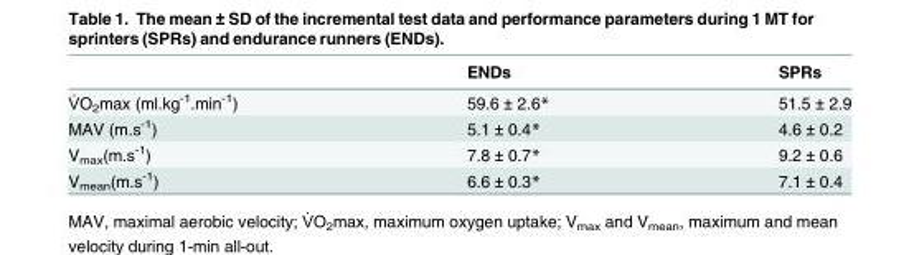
<table><thead><tr><td></td><td>ENDs</td><td>SPRs</td></tr></thead><tbody><tr><td>V̇O<sub>2</sub>max (ml.kg<sup>-1</sup>.min<sup>-1</sup>)</td><td>59.6 ± 2.6*</td><td>51.5 ± 2.9</td></tr><tr><td>MAV (m.s<sup>-1</sup>)</td><td>5.1 ± 0.4*</td><td>4.6 ± 0.2</td></tr><tr><td>V<sub>max</sub>(m.s<sup>-1</sup>)</td><td>7.8 ± 0.7*</td><td>9.2 ± 0.6</td></tr><tr><td>V<sub>mean</sub>(m.s<sup>-1</sup>)</td><td>6.6 ± 0.3*</td><td>7.1 ± 0.4</td></tr></tbody></table>